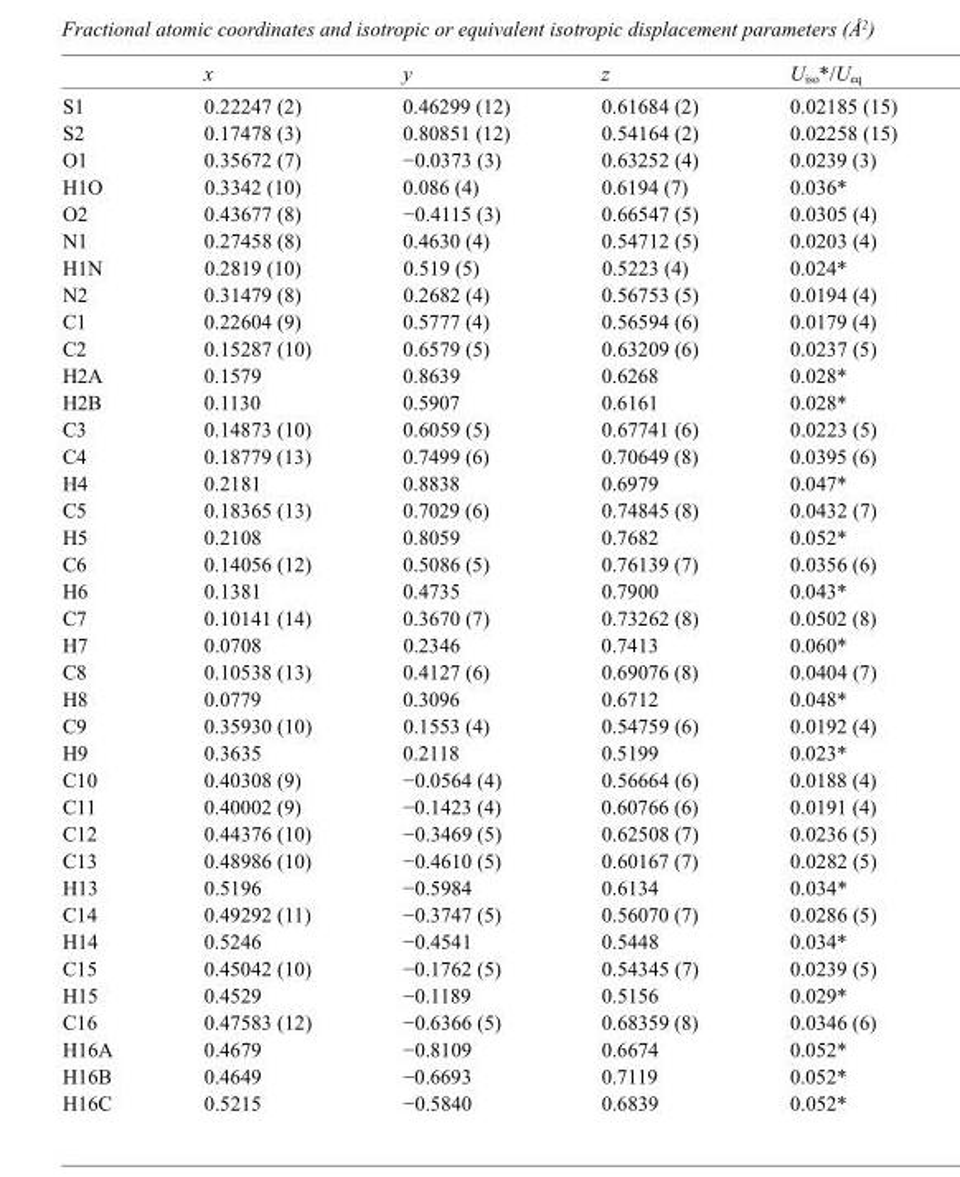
<table><thead><tr><td></td><td>x</td><td>y</td><td>z</td><td>U<sub>iso</sub>*/U<sub>eq</sub></td></tr></thead><tbody><tr><td>S1</td><td>0.22247 (2)</td><td>0.46299 (12)</td><td>0.61684 (2)</td><td>0.02185 (15)</td></tr><tr><td>S2</td><td>0.17478 (3)</td><td>0.80851 (12)</td><td>0.54164 (2)</td><td>0.02258 (15)</td></tr><tr><td>O1</td><td>0.35672 (7)</td><td>−0.0373 (3)</td><td>0.63252 (4)</td><td>0.0239 (3)</td></tr><tr><td>H1O</td><td>0.3342 (10)</td><td>0.086 (4)</td><td>0.6194 (7)</td><td>0.036*</td></tr><tr><td>O2</td><td>0.43677 (8)</td><td>−0.4115 (3)</td><td>0.66547 (5)</td><td>0.0305 (4)</td></tr><tr><td>N1</td><td>0.27458 (8)</td><td>0.4630 (4)</td><td>0.54712 (5)</td><td>0.0203 (4)</td></tr><tr><td>H1N</td><td>0.2819 (10)</td><td>0.519 (5)</td><td>0.5223 (4)</td><td>0.024*</td></tr><tr><td>N2</td><td>0.31479 (8)</td><td>0.2682 (4)</td><td>0.56753 (5)</td><td>0.0194 (4)</td></tr><tr><td>C1</td><td>0.22604 (9)</td><td>0.5777 (4)</td><td>0.56594 (6)</td><td>0.0179 (4)</td></tr><tr><td>C2</td><td>0.15287 (10)</td><td>0.6579 (5)</td><td>0.63209 (6)</td><td>0.0237 (5)</td></tr><tr><td>H2A</td><td>0.1579</td><td>0.8639</td><td>0.6268</td><td>0.028*</td></tr><tr><td>H2B</td><td>0.1130</td><td>0.5907</td><td>0.6161</td><td>0.028*</td></tr><tr><td>C3</td><td>0.14873 (10)</td><td>0.6059 (5)</td><td>0.67741 (6)</td><td>0.0223 (5)</td></tr><tr><td>C4</td><td>0.18779 (13)</td><td>0.7499 (6)</td><td>0.70649 (8)</td><td>0.0395 (6)</td></tr><tr><td>H4</td><td>0.2181</td><td>0.8838</td><td>0.6979</td><td>0.047*</td></tr><tr><td>C5</td><td>0.18365 (13)</td><td>0.7029 (6)</td><td>0.74845 (8)</td><td>0.0432 (7)</td></tr><tr><td>H5</td><td>0.2108</td><td>0.8059</td><td>0.7682</td><td>0.052*</td></tr><tr><td>C6</td><td>0.14056 (12)</td><td>0.5086 (5)</td><td>0.76139 (7)</td><td>0.0356 (6)</td></tr><tr><td>H6</td><td>0.1381</td><td>0.4735</td><td>0.7900</td><td>0.043*</td></tr><tr><td>C7</td><td>0.10141 (14)</td><td>0.3670 (7)</td><td>0.73262 (8)</td><td>0.0502 (8)</td></tr><tr><td>H7</td><td>0.0708</td><td>0.2346</td><td>0.7413</td><td>0.060*</td></tr><tr><td>C8</td><td>0.10538 (13)</td><td>0.4127 (6)</td><td>0.69076 (8)</td><td>0.0404 (7)</td></tr><tr><td>H8</td><td>0.0779</td><td>0.3096</td><td>0.6712</td><td>0.048*</td></tr><tr><td>C9</td><td>0.35930 (10)</td><td>0.1553 (4)</td><td>0.54759 (6)</td><td>0.0192 (4)</td></tr><tr><td>H9</td><td>0.3635</td><td>0.2118</td><td>0.5199</td><td>0.023*</td></tr><tr><td>C10</td><td>0.40308 (9)</td><td>−0.0564 (4)</td><td>0.56664 (6)</td><td>0.0188 (4)</td></tr><tr><td>C11</td><td>0.40002 (9)</td><td>−0.1423 (4)</td><td>0.60766 (6)</td><td>0.0191 (4)</td></tr><tr><td>C12</td><td>0.44376 (10)</td><td>−0.3469 (5)</td><td>0.62508 (7)</td><td>0.0236 (5)</td></tr><tr><td>C13</td><td>0.48986 (10)</td><td>−0.4610 (5)</td><td>0.60167 (7)</td><td>0.0282 (5)</td></tr><tr><td>H13</td><td>0.5196</td><td>−0.5984</td><td>0.6134</td><td>0.034*</td></tr><tr><td>C14</td><td>0.49292 (11)</td><td>−0.3747 (5)</td><td>0.56070 (7)</td><td>0.0286 (5)</td></tr><tr><td>H14</td><td>0.5246</td><td>−0.4541</td><td>0.5448</td><td>0.034*</td></tr><tr><td>C15</td><td>0.45042 (10)</td><td>−0.1762 (5)</td><td>0.54345 (7)</td><td>0.0239 (5)</td></tr><tr><td>H15</td><td>0.4529</td><td>−0.1189</td><td>0.5156</td><td>0.029*</td></tr><tr><td>C16</td><td>0.47583 (12)</td><td>−0.6366 (5)</td><td>0.68359 (8)</td><td>0.0346 (6)</td></tr><tr><td>H16A</td><td>0.4679</td><td>−0.8109</td><td>0.6674</td><td>0.052*</td></tr><tr><td>H16B</td><td>0.4649</td><td>−0.6693</td><td>0.7119</td><td>0.052*</td></tr><tr><td>H16C</td><td>0.5215</td><td>−0.5840</td><td>0.6839</td><td>0.052*</td></tr></tbody></table>